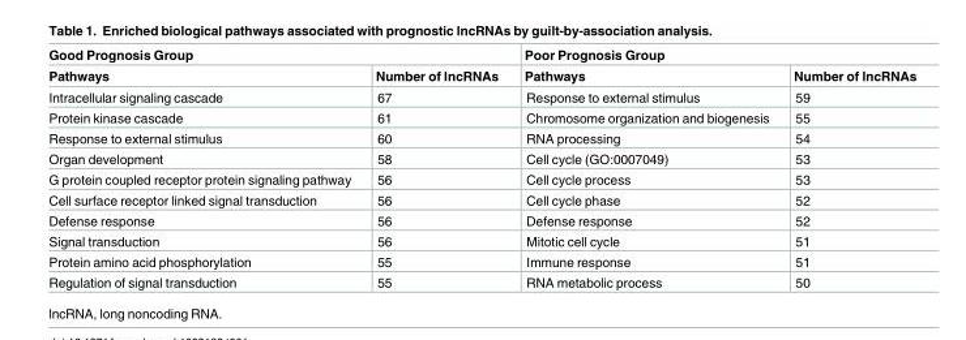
<table><thead><tr><td colspan="2">Good Prognosis Group</td><td colspan="2">Poor Prognosis Group</td></tr><tr><td>Pathways</td><td>Number of lncRNAs</td><td>Pathways</td><td>Number of lncRNAs</td></tr></thead><tbody><tr><td>Intracellular signaling cascade</td><td>67</td><td>Response to external stimulus</td><td>59</td></tr><tr><td>Protein kinase cascade</td><td>61</td><td>Chromosome organization and biogenesis</td><td>55</td></tr><tr><td>Response to external stimulus</td><td>60</td><td>RNA processing</td><td>54</td></tr><tr><td>Organ development</td><td>58</td><td>Cell cycle (GO:0007049)</td><td>53</td></tr><tr><td>G protein coupled receptor protein signaling pathway</td><td>56</td><td>Cell cycle process</td><td>53</td></tr><tr><td>Cell surface receptor linked signal transduction</td><td>56</td><td>Cell cycle phase</td><td>52</td></tr><tr><td>Defense response</td><td>56</td><td>Defense response</td><td>52</td></tr><tr><td>Signal transduction</td><td>56</td><td>Mitotic cell cycle</td><td>51</td></tr><tr><td>Protein amino acid phosphorylation</td><td>55</td><td>Immune response</td><td>51</td></tr><tr><td>Regulation of signal transduction</td><td>55</td><td>RNA metabolic process</td><td>50</td></tr></tbody></table>